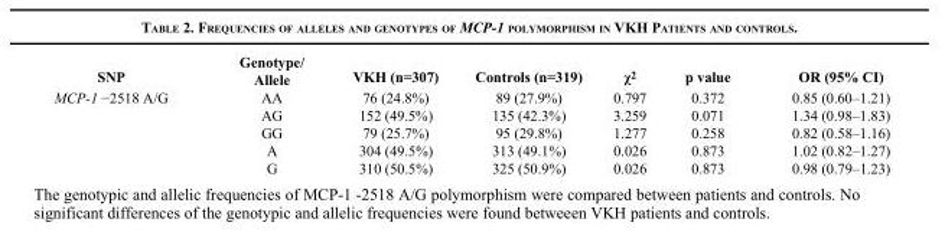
<table><thead><tr><td>SNP</td><td>Genotype/ Allele</td><td>VKH (n=307)</td><td>Controls (n=319)</td><td>χ<sup>2</sup></td><td>p value</td><td>OR (95% CI)</td></tr></thead><tbody><tr><td rowspan="5">MCP-1 −2518 A/G</td><td>AA</td><td>76 (24.8%)</td><td>89 (27.9%)</td><td>0.797</td><td>0.372</td><td>0.85 (0.60–1.21)</td></tr><tr><td>AG</td><td>152 (49.5%)</td><td>135 (42.3%)</td><td>3.259</td><td>0.071</td><td>1.34 (0.98–1.83)</td></tr><tr><td>GG</td><td>79 (25.7%)</td><td>95 (29.8%)</td><td>1.277</td><td>0.258</td><td>0.82 (0.58–1.16)</td></tr><tr><td>A</td><td>304 (49.5%)</td><td>313 (49.1%)</td><td>0.026</td><td>0.873</td><td>1.02 (0.82–1.27)</td></tr><tr><td>G</td><td>310 (50.5%)</td><td>325 (50.9%)</td><td>0.026</td><td>0.873</td><td>0.98 (0.79–1.23)</td></tr></tbody></table>